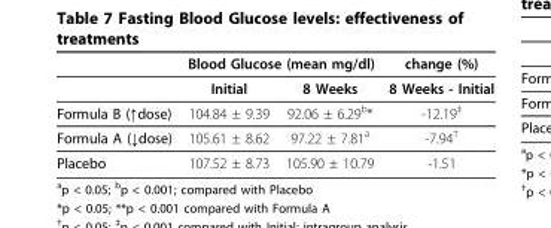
<table><thead><tr><td rowspan="2"></td><td colspan="2">Blood Glucose (mean mg/dl)</td><td rowspan="2">change (%) 8 Weeks - Initial</td></tr><tr><td>Initial</td><td>8 Weeks</td></tr></thead><tbody><tr><td>Formula B (↑dose)</td><td>104.84 ± 9.39</td><td>92.06 ± 6.29b*</td><td>-12.19‡</td></tr><tr><td>Formula A (↓dose)</td><td>105.61 ± 8.62</td><td>97.22 ± 7.81a</td><td>-7.94†</td></tr><tr><td>Placebo</td><td>107.52 ± 8.73</td><td>105.90 ± 10.79</td><td>-1.51</td></tr></tbody></table>